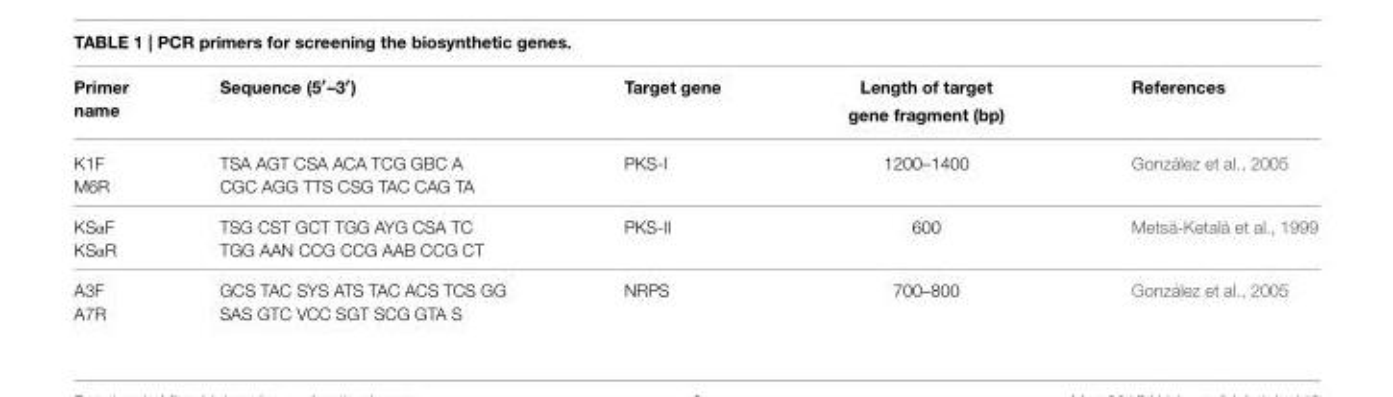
<table><thead><tr><td>Primer name</td><td>Sequence (5′–3′)</td><td>Target gene</td><td>Length of target gene fragment (bp)</td><td>References</td></tr></thead><tbody><tr><td>K1F M6R</td><td>TSA AGT CSA ACA TCG GBC A CGC AGG TTS CSG TAC CAG TA</td><td>PKS-I</td><td>1200–1400</td><td>González et al., 2005</td></tr><tr><td>KSαF KSαR</td><td>TSG CST GCT TGG AYG CSA TC TGG AAN CCG CCG AAB CCG CT</td><td>PKS-II</td><td>600</td><td>Metsä-Ketalä et al., 1999</td></tr><tr><td>A3F A7R</td><td>GCS TAC SYS ATS TAC ACS TCS GG SAS GTC VCC SGT SCG GTA S</td><td>NRPS</td><td>700–800</td><td>González et al., 2005</td></tr></tbody></table>